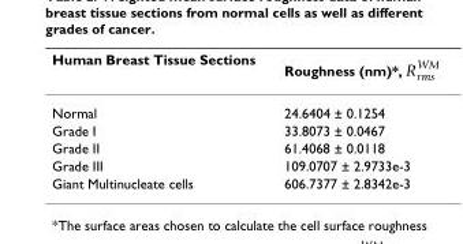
<table><thead><tr><td>Human Breast Tissue Sections</td><td>Roughness (nm)*,</td></tr></thead><tbody><tr><td>Normal</td><td>24.6404 ± 0.1254</td></tr><tr><td>Grade I</td><td>33.8073 ± 0.0467</td></tr><tr><td>Grade II</td><td>61.4068 ± 0.0118</td></tr><tr><td>Grade III</td><td>109.0707 ± 2.9733e-3</td></tr><tr><td>Giant Multinucleate cells</td><td>606.7377 ± 2.8342e-3</td></tr></tbody></table>